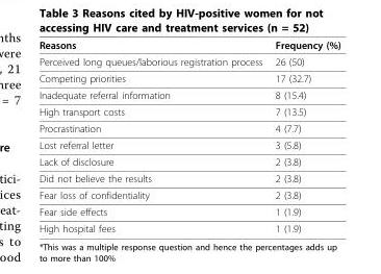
<table><thead><tr><td>Reasons</td><td>Frequency (%)</td></tr></thead><tbody><tr><td>Perceived long queues/laborious registration process</td><td>26 (50)</td></tr><tr><td>Competing priorities</td><td>17 (32.7)</td></tr><tr><td>Inadequate referral information</td><td>8 (15.4)</td></tr><tr><td>High transport costs</td><td>7 (13.5)</td></tr><tr><td>Procrastination</td><td>4 (7.7)</td></tr><tr><td>Lost referral letter</td><td>3 (5.8)</td></tr><tr><td>Lack of disclosure</td><td>2 (3.8)</td></tr><tr><td>Did not believe the results</td><td>2 (3.8)</td></tr><tr><td>Fear loss of confidentiality</td><td>2 (3.8)</td></tr><tr><td>Fear side effects</td><td>1 (1.9)</td></tr><tr><td>High hospital fees</td><td>1 (1.9)</td></tr></tbody></table>